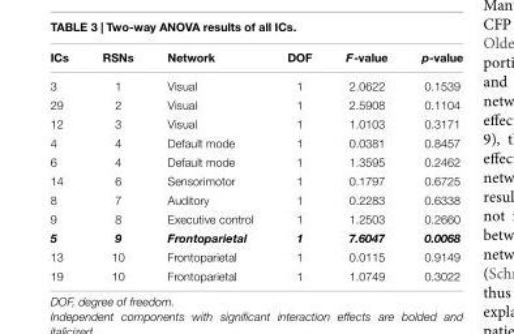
<table><thead><tr><td>ICs</td><td>RSNs</td><td>Network</td><td>DOF</td><td>F-value</td><td>p-value</td></tr></thead><tbody><tr><td>3</td><td>1</td><td>Visual</td><td>1</td><td>2.0622</td><td>0.1539</td></tr><tr><td>29</td><td>2</td><td>Visual</td><td>1</td><td>2.5908</td><td>0.1104</td></tr><tr><td>12</td><td>3</td><td>Visual</td><td>1</td><td>1.0103</td><td>0.3171</td></tr><tr><td>4</td><td>4</td><td>Default mode</td><td>1</td><td>0.0381</td><td>0.8457</td></tr><tr><td>6</td><td>4</td><td>Default mode</td><td>1</td><td>1.3595</td><td>0.2462</td></tr><tr><td>14</td><td>6</td><td>Sensorimotor</td><td>1</td><td>0.1797</td><td>0.6725</td></tr><tr><td>8</td><td>7</td><td>Auditory</td><td>1</td><td>0.2283</td><td>0.6338</td></tr><tr><td>9</td><td>8</td><td>Executive control</td><td>1</td><td>1.2503</td><td>0.2660</td></tr><tr><td>5</td><td>9</td><td>Frontoparietal</td><td>1</td><td>7.6047</td><td>0.0068</td></tr><tr><td>13</td><td>10</td><td>Frontoparietal</td><td>1</td><td>0.0115</td><td>0.9149</td></tr><tr><td>19</td><td>10</td><td>Frontoparietal</td><td>1</td><td>1.0749</td><td>0.3022</td></tr></tbody></table>